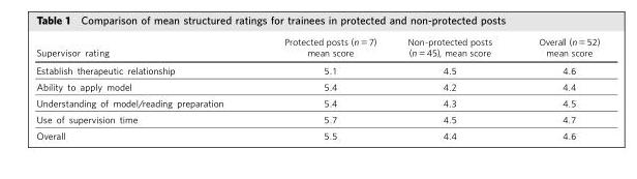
<table><thead><tr><td>Supervisor rating</td><td>Protected posts (n = 7) mean score</td><td>Non-protected posts (n = 45), mean score</td><td>Overall (n = 52) mean score</td></tr></thead><tbody><tr><td>Establish therapeutic relationship</td><td>5.1</td><td>4.5</td><td>4.6</td></tr><tr><td>Ability to apply model</td><td>5.4</td><td>4.2</td><td>4.4</td></tr><tr><td>Understanding of model/reading preparation</td><td>5.4</td><td>4.3</td><td>4.5</td></tr><tr><td>Use of supervision time</td><td>5.7</td><td>4.5</td><td>4.7</td></tr><tr><td>Overall</td><td>5.5</td><td>4.4</td><td>4.6</td></tr></tbody></table>